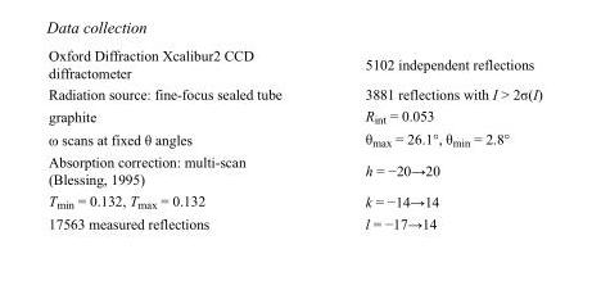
<table><tbody><tr><td>Oxford Diffraction Xcalibur2 CCD diffractometer</td><td>5102 independent reflections</td></tr><tr><td>Radiation source: fine-focus sealed tube</td><td>3881 reflections with I &gt; 2σ(I)</td></tr><tr><td>graphite</td><td>R<sub>int</sub> = 0.053</td></tr><tr><td>ω scans at fixed θ angles</td><td>θ<sub>max</sub> = 26.1°, θ<sub>min</sub> = 2.8°</td></tr><tr><td>Absorption correction: multi-scan (Blessing, 1995)</td><td>h = −20→20</td></tr><tr><td>T<sub>min</sub> = 0.132, T<sub>max</sub> = 0.132</td><td>k = −14→14</td></tr><tr><td>17563 measured reflections</td><td>l = −17→14</td></tr></tbody></table>